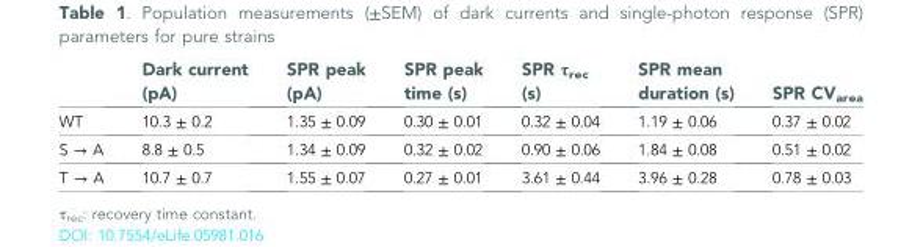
<table><thead><tr><td></td><td>Dark current (pA)</td><td>SPR peak (pA)</td><td>SPR peak time (s)</td><td>SPR τ<sub>rec</sub> (s)</td><td>SPR mean duration (s)</td><td>SPR CV<sub>area</sub></td></tr></thead><tbody><tr><td>WT</td><td>10.3 ± 0.2</td><td>1.35 ± 0.09</td><td>0.30 ± 0.01</td><td>0.32 ± 0.04</td><td>1.19 ± 0.06</td><td>0.37 ± 0.02</td></tr><tr><td>S → A</td><td>8.8 ± 0.5</td><td>1.34 ± 0.09</td><td>0.32 ± 0.02</td><td>0.90 ± 0.06</td><td>1.84 ± 0.08</td><td>0.51 ± 0.02</td></tr><tr><td>T → A</td><td>10.7 ± 0.7</td><td>1.55 ± 0.07</td><td>0.27 ± 0.01</td><td>3.61 ± 0.44</td><td>3.96 ± 0.28</td><td>0.78 ± 0.03</td></tr></tbody></table>